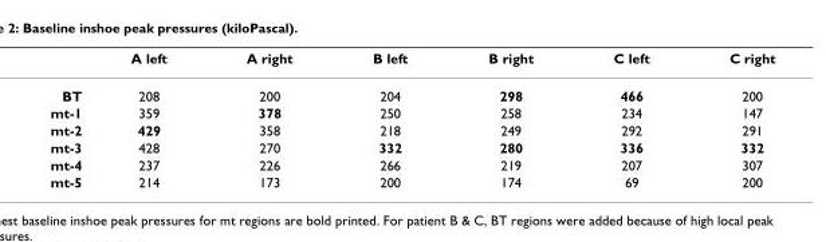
<table><thead><tr><td></td><td>A left</td><td>A right</td><td>B left</td><td>B right</td><td>C left</td><td>C right</td></tr></thead><tbody><tr><td>BT</td><td>208</td><td>200</td><td>204</td><td>298</td><td>466</td><td>200</td></tr><tr><td>mt-1</td><td>359</td><td>378</td><td>250</td><td>258</td><td>234</td><td>147</td></tr><tr><td>mt-2</td><td>429</td><td>358</td><td>218</td><td>249</td><td>292</td><td>291</td></tr><tr><td>mt-3</td><td>428</td><td>270</td><td>332</td><td>280</td><td>336</td><td>332</td></tr><tr><td>mt-4</td><td>237</td><td>226</td><td>266</td><td>219</td><td>207</td><td>307</td></tr><tr><td>mt-5</td><td>214</td><td>173</td><td>200</td><td>174</td><td>69</td><td>200</td></tr></tbody></table>